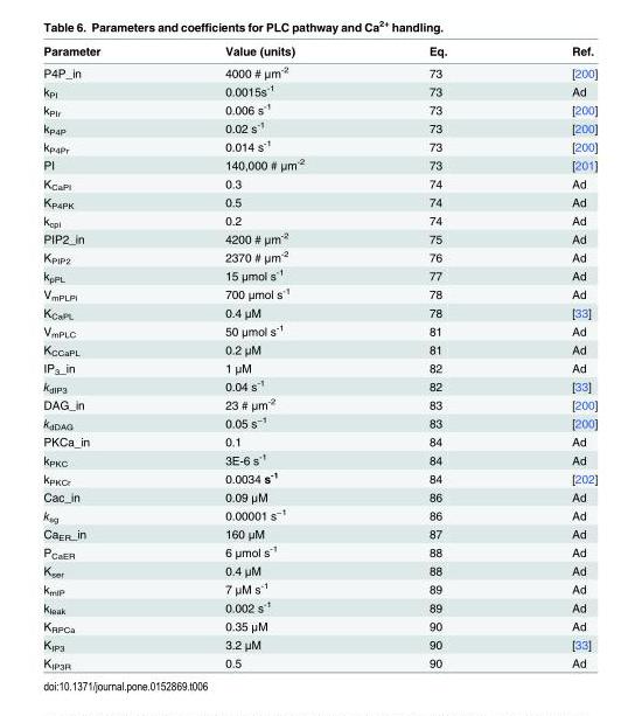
<table><thead><tr><td>Parameter</td><td>Value (units)</td><td>Eq.</td><td>Ref.</td></tr></thead><tbody><tr><td>P4P_in</td><td>4000 # μm<sup>-2</sup></td><td>73</td><td>[200]</td></tr><tr><td>k<sub>PI</sub></td><td>0.0015s<sup>-1</sup></td><td>73</td><td>Ad</td></tr><tr><td>k<sub>PIr</sub></td><td>0.006 s<sup>-1</sup></td><td>73</td><td>[200]</td></tr><tr><td>k<sub>P4P</sub></td><td>0.02 s<sup>-1</sup></td><td>73</td><td>[200]</td></tr><tr><td>k<sub>P4Pr</sub></td><td>0.014 s<sup>-1</sup></td><td>73</td><td>[200]</td></tr><tr><td>PI</td><td>140,000 # μm<sup>-2</sup></td><td>73</td><td>[201]</td></tr><tr><td>K<sub>CaPI</sub></td><td>0.3</td><td>74</td><td>Ad</td></tr><tr><td>K<sub>P4PK</sub></td><td>0.5</td><td>74</td><td>Ad</td></tr><tr><td>k<sub>cpi</sub></td><td>0.2</td><td>74</td><td>Ad</td></tr><tr><td>PIP2_in</td><td>4200 # μm<sup>-2</sup></td><td>75</td><td>Ad</td></tr><tr><td>K<sub>PIP2</sub></td><td>2370 # μm<sup>-2</sup></td><td>76</td><td>Ad</td></tr><tr><td>k<sub>pPL</sub></td><td>15 μmol s<sup>-1</sup></td><td>77</td><td>Ad</td></tr><tr><td>V<sub>mPLPi</sub></td><td>700 μmol s<sup>-1</sup></td><td>78</td><td>Ad</td></tr><tr><td>K<sub>CaPL</sub></td><td>0.4 μM</td><td>78</td><td>[33]</td></tr><tr><td>V<sub>mPLC</sub></td><td>50 μmol s<sup>-1</sup></td><td>81</td><td>Ad</td></tr><tr><td>K<sub>CCaPL</sub></td><td>0.2 μM</td><td>81</td><td>Ad</td></tr><tr><td>IP3_in</td><td>1 μM</td><td>82</td><td>Ad</td></tr><tr><td>k<sub>dIP3</sub></td><td>0.04 s<sup>-1</sup></td><td>82</td><td>[33]</td></tr><tr><td>DAG_in</td><td>23 # μm<sup>-2</sup></td><td>83</td><td>[200]</td></tr><tr><td>k<sub>dDAG</sub></td><td>0.05 s<sup>−1</sup></td><td>83</td><td>[200]</td></tr><tr><td>PKCa_in</td><td>0.1</td><td>84</td><td>Ad</td></tr><tr><td>k<sub>PKC</sub></td><td>3E-6 s<sup>-1</sup></td><td>84</td><td>Ad</td></tr><tr><td>k<sub>PKCr</sub></td><td>0.0034 s<sup>-1</sup></td><td>84</td><td>[202]</td></tr><tr><td>Cac_in</td><td>0.09 μM</td><td>86</td><td>Ad</td></tr><tr><td>k<sub>sg</sub></td><td>0.00001 s<sup>−1</sup></td><td>86</td><td>Ad</td></tr><tr><td>CaER_in</td><td>160 μM</td><td>87</td><td>Ad</td></tr><tr><td>P<sub>CaER</sub></td><td>6 μmol s<sup>-1</sup></td><td>88</td><td>Ad</td></tr><tr><td>K<sub>ser</sub></td><td>0.4 μM</td><td>88</td><td>Ad</td></tr><tr><td>k<sub>mIP</sub></td><td>7 μM s<sup>-1</sup></td><td>89</td><td>Ad</td></tr><tr><td>k<sub>leak</sub></td><td>0.002 s<sup>-1</sup></td><td>89</td><td>Ad</td></tr><tr><td>K<sub>RPCa</sub></td><td>0.35 μM</td><td>90</td><td>Ad</td></tr><tr><td>K<sub>IP3</sub></td><td>3.2 μM</td><td>90</td><td>[33]</td></tr><tr><td>K<sub>IP3R</sub></td><td>0.5</td><td>90</td><td>Ad</td></tr></tbody></table>